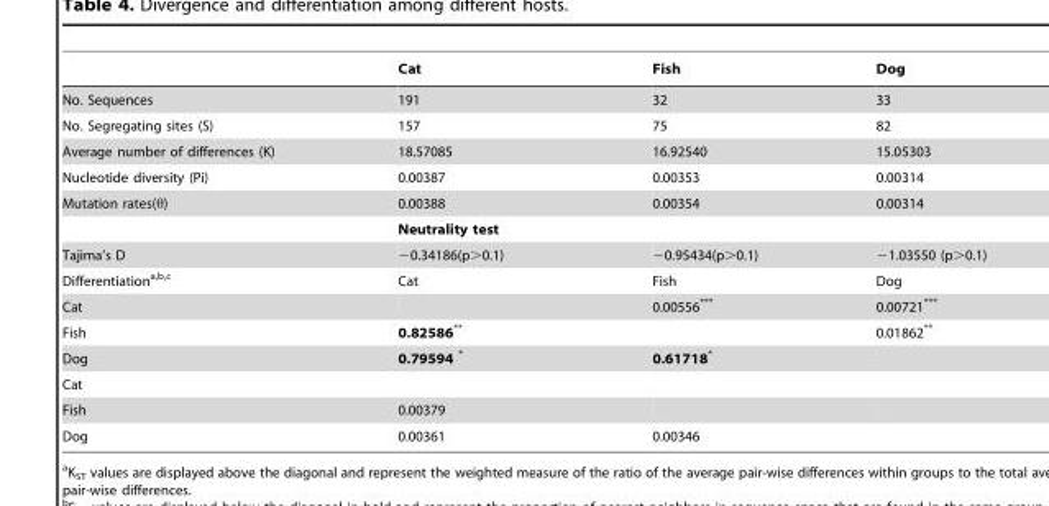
<table><thead><tr><td></td><td>Cat</td><td>Fish</td><td>Dog</td></tr></thead><tbody><tr><td>No. Sequences</td><td>191</td><td>32</td><td>33</td></tr><tr><td>No. Segregating sites (S)</td><td>157</td><td>75</td><td>82</td></tr><tr><td>Average number of differences (K)</td><td>18.57085</td><td>16.92540</td><td>15.05303</td></tr><tr><td>Nucleotide diversity (Pi)</td><td>0.00387</td><td>0.00353</td><td>0.00314</td></tr><tr><td rowspan="2">Mutation rates(θ)</td><td>0.00388</td><td>0.00354</td><td>0.00314</td></tr><tr><td colspan="3">Neutrality test</td></tr><tr><td>Tajima’s D</td><td>−0.34186(p&gt;0.1)</td><td>−0.95434(p&gt;0.1)</td><td>−1.03550 (p&gt;0.1)</td></tr><tr><td>Differentiation<sup>a,</sup>b<sup>,</sup>c</td><td>Cat</td><td>Fish</td><td>Dog</td></tr><tr><td>Cat</td><td></td><td>0.00556***</td><td>0.00721***</td></tr><tr><td>Fish</td><td>0.82586**</td><td></td><td>0.01862**</td></tr><tr><td>Dog</td><td>0.79594 *</td><td>0.61718*</td><td></td></tr><tr><td colspan="4">Cat</td></tr><tr><td>Fish</td><td>0.00379</td><td></td><td></td></tr><tr><td>Dog</td><td>0.00361</td><td>0.00346</td><td></td></tr></tbody></table>